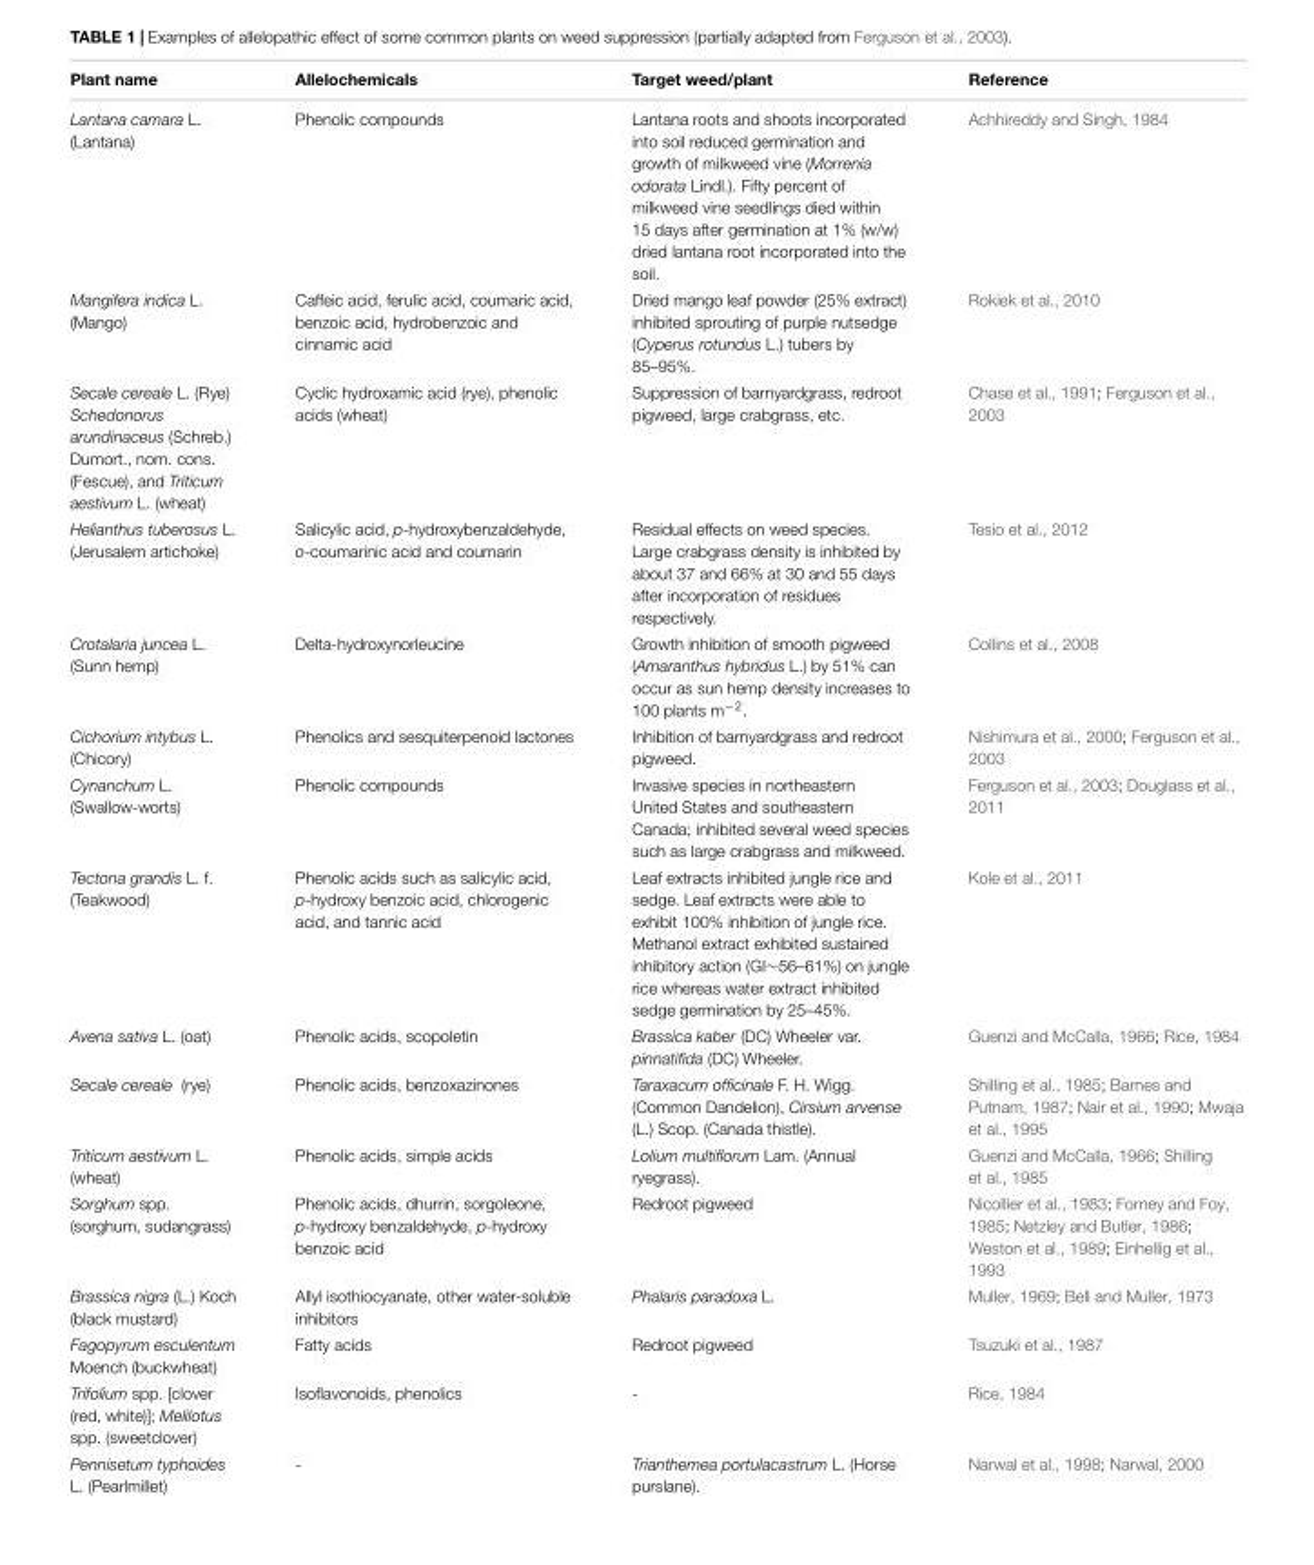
<table><thead><tr><td>Plant name</td><td>Allelochemicals</td><td>Target weed/plant</td><td>Reference</td></tr></thead><tbody><tr><td>Lantana camara L. (Lantana)</td><td>Phenolic compounds</td><td>Lantana roots and shoots incorporated into soil reduced germination and growth of milkweed vine (Morrenia odorata Lindl.). Fifty percent of milkweed vine seedlings died within 15 days after germination at 1% (w/w) dried lantana root incorporated into the soil.</td><td>Achhireddy and Singh, 1984</td></tr><tr><td>Mangifera indica L. (Mango)</td><td>Caffeic acid, ferulic acid, coumaric acid, benzoic acid, hydrobenzoic and cinnamic acid</td><td>Dried mango leaf powder (25% extract) inhibited sprouting of purple nutsedge (Cyperus rotundus L.) tubers by 85–95%.</td><td>Rokiek et al., 2010</td></tr><tr><td>Secale cereale L. (Rye) Schedonorus arundinaceus (Schreb.) Dumort., nom. cons. (Fescue), and Triticum aestivum L. (wheat)</td><td>Cyclic hydroxamic acid (rye), phenolic acids (wheat)</td><td>Suppression of barnyardgrass, redroot pigweed, large crabgrass, etc.</td><td>Chase et al., 1991; Ferguson et al., 2003</td></tr><tr><td>Helianthus tuberosus L. (Jerusalem artichoke)</td><td>Salicylic acid, p-hydroxybenzaldehyde, o-coumarinic acid and coumarin</td><td>Residual effects on weed species. Large crabgrass density is inhibited by about 37 and 66% at 30 and 55 days after incorporation of residues respectively.</td><td>Tesio et al., 2012</td></tr><tr><td>Crotalaria juncea L. (Sunn hemp)</td><td>Delta-hydroxynorleucine</td><td>Growth inhibition of smooth pigweed (Amaranthus hybridus L.) by 51% can occur as sun hemp density increases to 100 plants m<sup>−2</sup>.</td><td>Collins et al., 2008</td></tr><tr><td>Cichorium intybus L. (Chicory)</td><td>Phenolics and sesquiterpenoid lactones</td><td>Inhibition of barnyardgrass and redroot pigweed.</td><td>Nishimura et al., 2000; Ferguson et al., 2003</td></tr><tr><td>Cynanchum L. (Swallow-worts)</td><td>Phenolic compounds</td><td>Invasive species in northeastern United States and southeastern Canada; inhibited several weed species such as large crabgrass and milkweed.</td><td>Ferguson et al., 2003; Douglass et al., 2011</td></tr><tr><td>Tectona grandis L. f. (Teakwood)</td><td>Phenolic acids such as salicylic acid, p-hydroxy benzoic acid, chlorogenic acid, and tannic acid</td><td>Leaf extracts inhibited jungle rice and sedge. Leaf extracts were able to exhibit 100% inhibition of jungle rice. Methanol extract exhibited sustained inhibitory action (GI∼56–61%) on jungle rice whereas water extract inhibited sedge germination by 25–45%.</td><td>Kole et al., 2011</td></tr><tr><td>Avena sativa L. (oat)</td><td>Phenolic acids, scopoletin</td><td>Brassica kaber (DC) Wheeler var. pinnatifida (DC) Wheeler.</td><td>Guenzi and McCalla, 1966; Rice, 1984</td></tr><tr><td>Secale cereale (rye)</td><td>Phenolic acids, benzoxazinones</td><td>Taraxacum officinale F. H. Wigg. (Common Dandelion), Cirsium arvense (L.) Scop. (Canada thistle).</td><td>Shilling et al., 1985; Barnes and Putnam, 1987; Nair et al., 1990; Mwaja et al., 1995</td></tr><tr><td>Triticum aestivum L. (wheat)</td><td>Phenolic acids, simple acids</td><td>Lolium multiflorum Lam. (Annual ryegrass).</td><td>Guenzi and McCalla, 1966; Shilling et al., 1985</td></tr><tr><td>Sorghum spp. (sorghum, sudangrass)</td><td>Phenolic acids, dhurrin, sorgoleone, p-hydroxy benzaldehyde, p-hydroxy benzoic acid</td><td>Redroot pigweed</td><td>Nicollier et al., 1983; Forney and Foy, 1985; Netzley and Butler, 1986; Weston et al., 1989; Einhellig et al., 1993</td></tr><tr><td>Brassica nigra (L.) Koch (black mustard)</td><td>Allyl isothiocyanate, other water-soluble inhibitors</td><td>Phalaris paradoxa L.</td><td>Muller, 1969; Bell and Muller, 1973</td></tr><tr><td>Fagopyrum esculentum Moench (buckwheat)</td><td>Fatty acids</td><td>Redroot pigweed</td><td>Tsuzuki et al., 1987</td></tr><tr><td>Trifolium spp. [clover (red, white)]; Melilotus spp. (sweetclover)</td><td>Isoflavonoids, phenolics</td><td>-</td><td>Rice, 1984</td></tr><tr><td>Pennisetum typhoides L. (Pearlmillet)</td><td>-</td><td>Trianthemea portulacastrum L. (Horse purslane).</td><td>Narwal et al., 1998; Narwal, 2000</td></tr></tbody></table>